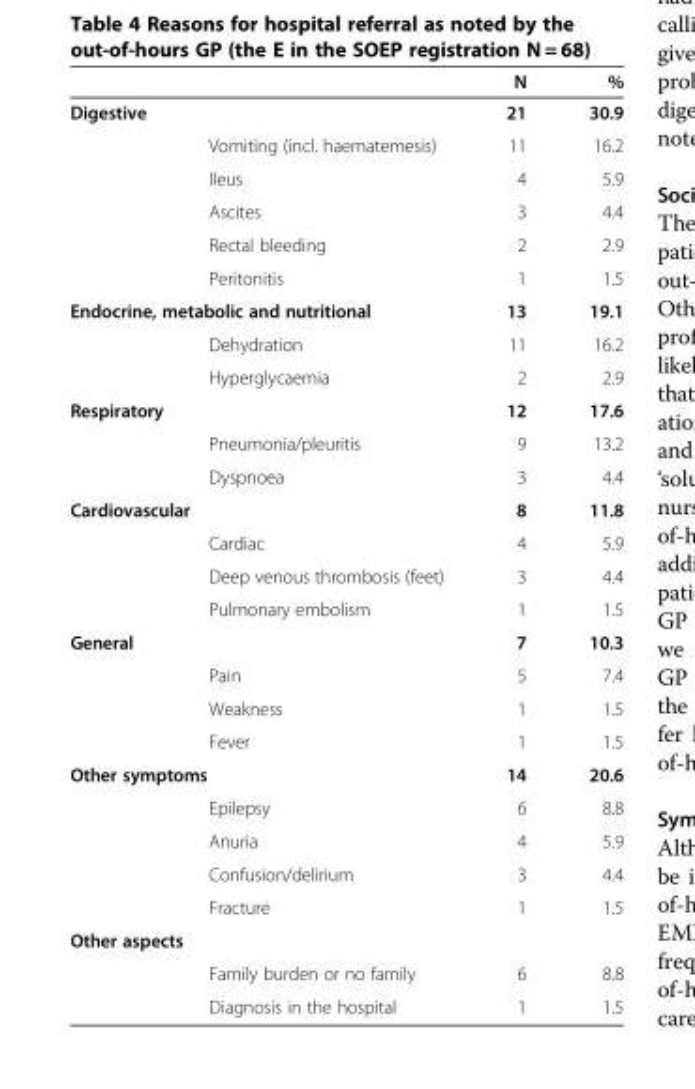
<table><thead><tr><td></td><td></td><td>N</td><td>%</td></tr></thead><tbody><tr><td rowspan="6">Digestive</td><td></td><td>21</td><td>30.9</td></tr><tr><td>Vomiting (incl. haematemesis)</td><td>11</td><td>16.2</td></tr><tr><td>Ileus</td><td>4</td><td>5.9</td></tr><tr><td>Ascites</td><td>3</td><td>4.4</td></tr><tr><td>Rectal bleeding</td><td>2</td><td>2.9</td></tr><tr><td>Peritonitis</td><td>1</td><td>1.5</td></tr><tr><td colspan="2">Endocrine, metabolic and nutritional</td><td>13</td><td>19.1</td></tr><tr><td></td><td>Dehydration</td><td>11</td><td>16.2</td></tr><tr><td></td><td>Hyperglycaemia</td><td>2</td><td>2.9</td></tr><tr><td rowspan="3">Respiratory</td><td></td><td>12</td><td>17.6</td></tr><tr><td>Pneumonia/pleuritis</td><td>9</td><td>13.2</td></tr><tr><td>Dyspnoea</td><td>3</td><td>4.4</td></tr><tr><td colspan="2">Cardiovascular</td><td>8</td><td>11.8</td></tr><tr><td></td><td>Cardiac</td><td>4</td><td>5.9</td></tr><tr><td></td><td>Deep venous thrombosis (feet)</td><td>3</td><td>4.4</td></tr><tr><td></td><td>Pulmonary embolism</td><td>1</td><td>1.5</td></tr><tr><td rowspan="4">General</td><td></td><td>7</td><td>10.3</td></tr><tr><td>Pain</td><td>5</td><td>7.4</td></tr><tr><td>Weakness</td><td>1</td><td>1.5</td></tr><tr><td>Fever</td><td>1</td><td>1.5</td></tr><tr><td colspan="2">Other symptoms</td><td>14</td><td>20.6</td></tr><tr><td></td><td>Epilepsy</td><td>6</td><td>8.8</td></tr><tr><td></td><td>Anuria</td><td>4</td><td>5.9</td></tr><tr><td></td><td>Confusion/delirium</td><td>3</td><td>4.4</td></tr><tr><td></td><td>Fracture</td><td>1</td><td>1.5</td></tr><tr><td colspan="4">Other aspects</td></tr><tr><td></td><td>Family burden or no family</td><td>6</td><td>8.8</td></tr><tr><td></td><td>Diagnosis in the hospital</td><td>1</td><td>1.5</td></tr></tbody></table>